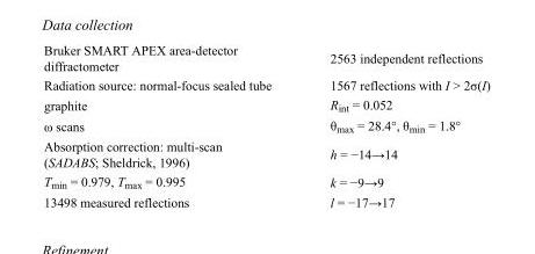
<table><tbody><tr><td>Bruker SMART APEX area-detector diffractometer</td><td>2563 independent reflections</td></tr><tr><td>Radiation source: normal-focus sealed tube</td><td>1567 reflections with I &gt; 2σ(I)</td></tr><tr><td>graphite</td><td>R<sub>int</sub> = 0.052</td></tr><tr><td>ω scans</td><td>θ<sub>max</sub> = 28.4°, θ<sub>min</sub> = 1.8°</td></tr><tr><td>Absorption correction: multi-scan (SADABS; Sheldrick, 1996)</td><td>h = −14→14</td></tr><tr><td>T<sub>min</sub> = 0.979, T<sub>max</sub> = 0.995</td><td>k = −9→9</td></tr><tr><td>13498 measured reflections</td><td>l = −17→17</td></tr></tbody></table>